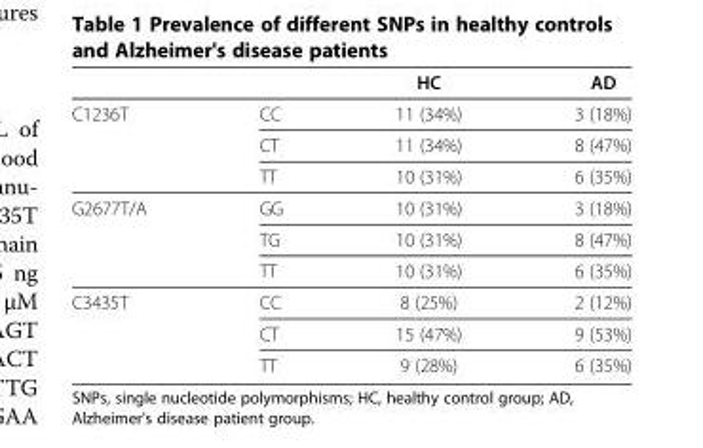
<table><thead><tr><td></td><td></td><td>HC</td><td>AD</td></tr></thead><tbody><tr><td rowspan="3">C1236T</td><td>CC</td><td>11 (34%)</td><td>3 (18%)</td></tr><tr><td>CT</td><td>11 (34%)</td><td>8 (47%)</td></tr><tr><td>TT</td><td>10 (31%)</td><td>6 (35%)</td></tr><tr><td rowspan="3">G2677T/A</td><td>GG</td><td>10 (31%)</td><td>3 (18%)</td></tr><tr><td>TG</td><td>10 (31%)</td><td>8 (47%)</td></tr><tr><td>TT</td><td>10 (31%)</td><td>6 (35%)</td></tr><tr><td rowspan="3">C3435T</td><td>CC</td><td>8 (25%)</td><td>2 (12%)</td></tr><tr><td>CT</td><td>15 (47%)</td><td>9 (53%)</td></tr><tr><td>TT</td><td>9 (28%)</td><td>6 (35%)</td></tr></tbody></table>